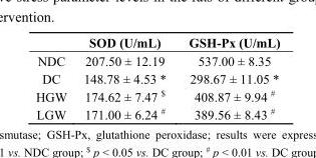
<table><thead><tr><td></td><td>SOD (U/mL)</td><td>GSH-Px (U/mL)</td></tr></thead><tbody><tr><td>NDC</td><td>207.50 ± 12.19</td><td>537.00 ± 8.35</td></tr><tr><td>DC</td><td>148.78 ± 4.53 *</td><td>298.67 ± 11.05 *</td></tr><tr><td>HGW</td><td>174.62 ± 7.47 <sup>$</sup></td><td>408.87 ± 9.94 <sup>#</sup></td></tr><tr><td>LGW</td><td>171.00 ± 6.24 <sup>#</sup></td><td>389.56 ± 8.43 <sup>#</sup></td></tr></tbody></table>